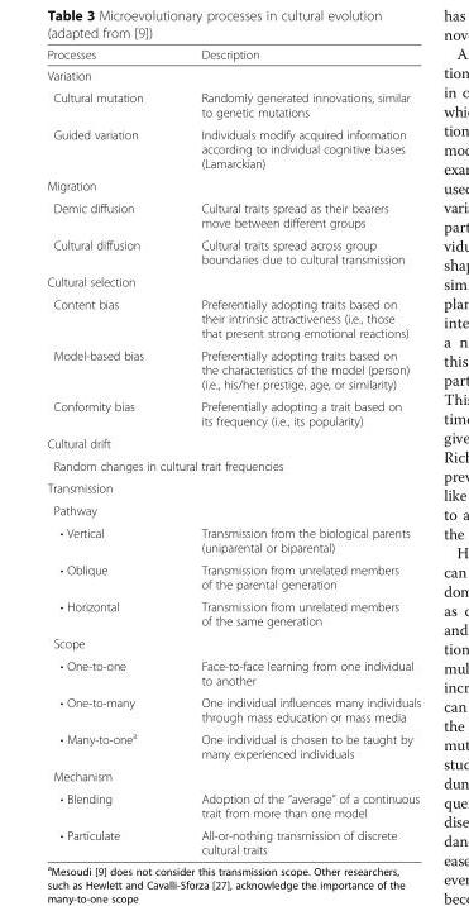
<table><thead><tr><td>Processes</td><td>Description</td></tr></thead><tbody><tr><td colspan="2">Variation</td></tr><tr><td>Cultural mutation</td><td>Randomly generated innovations, similar to genetic mutations</td></tr><tr><td>Guided variation</td><td>Individuals modify acquired information according to individual cognitive biases (Lamarckian)</td></tr><tr><td colspan="2">Migration</td></tr><tr><td>Demic diffusion</td><td>Cultural traits spread as their bearers move between different groups</td></tr><tr><td>Cultural diffusion</td><td>Cultural traits spread across group boundaries due to cultural transmission</td></tr><tr><td colspan="2">Cultural selection</td></tr><tr><td>Content bias</td><td>Preferentially adopting traits based on their intrinsic attractiveness (i.e., those that present strong emotional reactions)</td></tr><tr><td>Model-based bias</td><td>Preferentially adopting traits based on the characteristics of the model (person) (i.e., his/her prestige, age, or similarity)</td></tr><tr><td>Conformity bias</td><td>Preferentially adopting a trait based on its frequency (i.e., its popularity)</td></tr><tr><td colspan="2">Cultural drift</td></tr><tr><td colspan="2">Random changes in cultural trait frequencies</td></tr><tr><td colspan="2">Transmission</td></tr><tr><td colspan="2">Pathway</td></tr><tr><td>• Vertical</td><td>Transmission from the biological parents (uniparental or biparental)</td></tr><tr><td>• Oblique</td><td>Transmission from unrelated members of the parental generation</td></tr><tr><td>• Horizontal</td><td>Transmission from unrelated members of the same generation</td></tr><tr><td colspan="2">Scope</td></tr><tr><td>• One-to-one</td><td>Face-to-face learning from one individual to another</td></tr><tr><td>• One-to-many</td><td>One individual influences many individuals through mass education or mass media</td></tr><tr><td>• Many-to-one<sup>a</sup></td><td>One individual is chosen to be taught by many experienced individuals</td></tr><tr><td colspan="2">Mechanism</td></tr><tr><td>• Blending</td><td>Adoption of the “average” of a continuous trait from more than one model</td></tr><tr><td>• Particulate</td><td>All-or-nothing transmission of discrete cultural traits</td></tr></tbody></table>